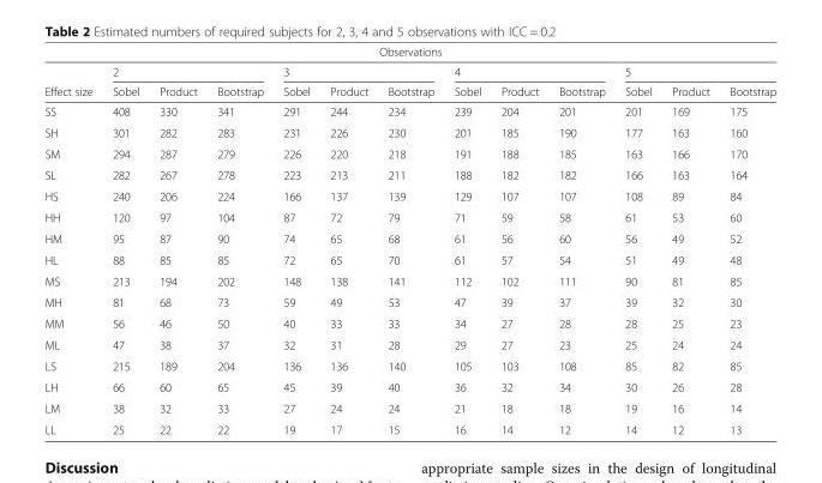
<table><thead><tr><td colspan="13">Observations</td></tr><tr><td rowspan="2">Effect size</td><td colspan="3">2</td><td colspan="3">3</td><td colspan="3">4</td><td colspan="3">5</td></tr><tr><td>Sobel</td><td>Product</td><td>Bootstrap</td><td>Sobel</td><td>Product</td><td>Bootstrap</td><td>Sobel</td><td>Product</td><td>Bootstrap</td><td>Sobel</td><td>Product</td><td>Bootstrap</td></tr></thead><tbody><tr><td>SS</td><td>408</td><td>330</td><td>341</td><td>291</td><td>244</td><td>234</td><td>239</td><td>204</td><td>201</td><td>201</td><td>169</td><td>175</td></tr><tr><td>SH</td><td>301</td><td>282</td><td>283</td><td>231</td><td>226</td><td>230</td><td>201</td><td>185</td><td>190</td><td>177</td><td>163</td><td>160</td></tr><tr><td>SM</td><td>294</td><td>287</td><td>279</td><td>226</td><td>220</td><td>218</td><td>191</td><td>188</td><td>185</td><td>163</td><td>166</td><td>170</td></tr><tr><td>SL</td><td>282</td><td>267</td><td>278</td><td>223</td><td>213</td><td>211</td><td>188</td><td>182</td><td>182</td><td>166</td><td>163</td><td>164</td></tr><tr><td>HS</td><td>240</td><td>206</td><td>224</td><td>166</td><td>137</td><td>139</td><td>129</td><td>107</td><td>107</td><td>108</td><td>89</td><td>84</td></tr><tr><td>HH</td><td>120</td><td>97</td><td>104</td><td>87</td><td>72</td><td>79</td><td>71</td><td>59</td><td>58</td><td>61</td><td>53</td><td>60</td></tr><tr><td>HM</td><td>95</td><td>87</td><td>90</td><td>74</td><td>65</td><td>68</td><td>61</td><td>56</td><td>60</td><td>56</td><td>49</td><td>52</td></tr><tr><td>HL</td><td>88</td><td>85</td><td>85</td><td>72</td><td>65</td><td>70</td><td>61</td><td>57</td><td>54</td><td>51</td><td>49</td><td>48</td></tr><tr><td>MS</td><td>213</td><td>194</td><td>202</td><td>148</td><td>138</td><td>141</td><td>112</td><td>102</td><td>111</td><td>90</td><td>81</td><td>85</td></tr><tr><td>MH</td><td>81</td><td>68</td><td>73</td><td>59</td><td>49</td><td>53</td><td>47</td><td>39</td><td>37</td><td>39</td><td>32</td><td>30</td></tr><tr><td>MM</td><td>56</td><td>46</td><td>50</td><td>40</td><td>33</td><td>33</td><td>34</td><td>27</td><td>28</td><td>28</td><td>25</td><td>23</td></tr><tr><td>ML</td><td>47</td><td>38</td><td>37</td><td>32</td><td>31</td><td>28</td><td>29</td><td>27</td><td>23</td><td>25</td><td>24</td><td>24</td></tr><tr><td>LS</td><td>215</td><td>189</td><td>204</td><td>136</td><td>136</td><td>140</td><td>105</td><td>103</td><td>108</td><td>85</td><td>82</td><td>85</td></tr><tr><td>LH</td><td>66</td><td>60</td><td>65</td><td>45</td><td>39</td><td>40</td><td>36</td><td>32</td><td>34</td><td>30</td><td>26</td><td>28</td></tr><tr><td>LM</td><td>38</td><td>32</td><td>33</td><td>27</td><td>24</td><td>24</td><td>21</td><td>18</td><td>18</td><td>19</td><td>16</td><td>14</td></tr><tr><td>LL</td><td>25</td><td>22</td><td>22</td><td>19</td><td>17</td><td>15</td><td>16</td><td>14</td><td>12</td><td>14</td><td>12</td><td>13</td></tr></tbody></table>